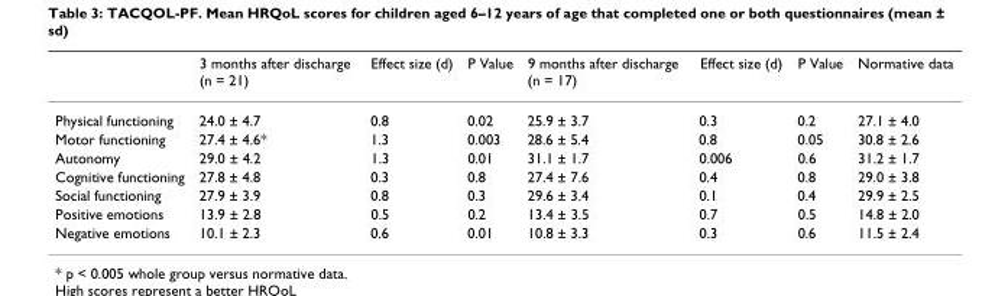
<table><thead><tr><td></td><td>3 months after discharge (n = 21)</td><td>Effect size (d)</td><td>P Value</td><td>9 months after discharge (n = 17)</td><td>Effect size (d)</td><td>P Value</td><td>Normative data</td></tr></thead><tbody><tr><td>Physical functioning</td><td>24.0 ± 4.7</td><td>0.8</td><td>0.02</td><td>25.9 ± 3.7</td><td>0.3</td><td>0.2</td><td>27.1 ± 4.0</td></tr><tr><td>Motor functioning</td><td>27.4 ± 4.6*</td><td>1.3</td><td>0.003</td><td>28.6 ± 5.4</td><td>0.8</td><td>0.05</td><td>30.8 ± 2.6</td></tr><tr><td>Autonomy</td><td>29.0 ± 4.2</td><td>1.3</td><td>0.01</td><td>31.1 ± 1.7</td><td>0.006</td><td>0.6</td><td>31.2 ± 1.7</td></tr><tr><td>Cognitive functioning</td><td>27.8 ± 4.8</td><td>0.3</td><td>0.8</td><td>27.4 ± 7.6</td><td>0.4</td><td>0.8</td><td>29.0 ± 3.8</td></tr><tr><td>Social functioning</td><td>27.9 ± 3.9</td><td>0.8</td><td>0.3</td><td>29.6 ± 3.4</td><td>0.1</td><td>0.4</td><td>29.9 ± 2.5</td></tr><tr><td>Positive emotions</td><td>13.9 ± 2.8</td><td>0.5</td><td>0.2</td><td>13.4 ± 3.5</td><td>0.7</td><td>0.5</td><td>14.8 ± 2.0</td></tr><tr><td>Negative emotions</td><td>10.1 ± 2.3</td><td>0.6</td><td>0.01</td><td>10.8 ± 3.3</td><td>0.3</td><td>0.6</td><td>11.5 ± 2.4</td></tr></tbody></table>